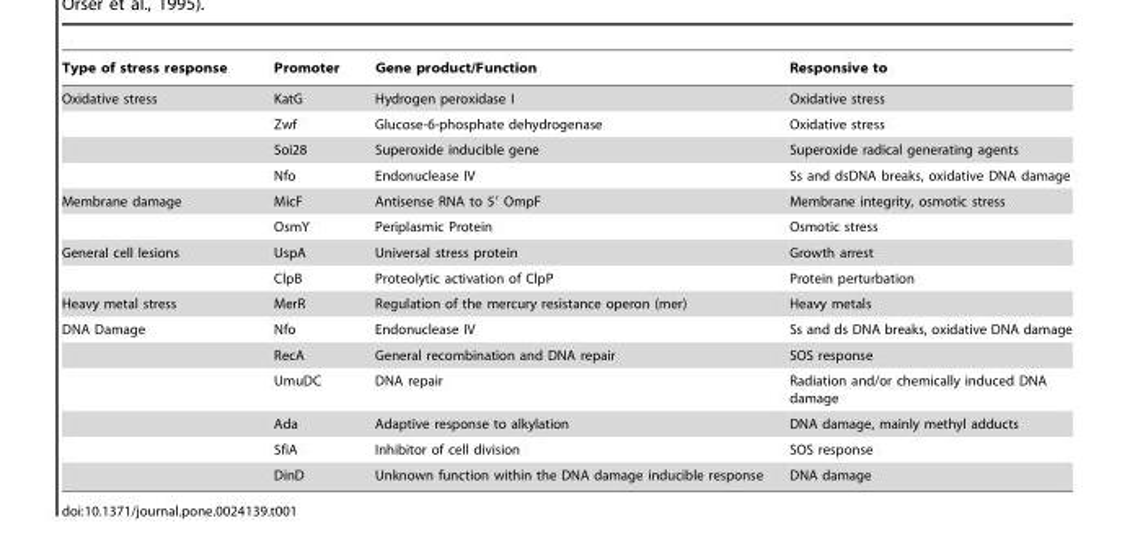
<table><thead><tr><td>Type of stress response</td><td>Promoter</td><td>Gene product/Function</td><td>Responsive to</td></tr></thead><tbody><tr><td rowspan="4">Oxidative stress</td><td>KatG</td><td>Hydrogen peroxidase I</td><td>Oxidative stress</td></tr><tr><td>Zwf</td><td>Glucose-6-phosphate dehydrogenase</td><td>Oxidative stress</td></tr><tr><td>Soi28</td><td>Superoxide inducible gene</td><td>Superoxide radical generating agents</td></tr><tr><td>Nfo</td><td>Endonuclease IV</td><td>Ss and dsDNA breaks, oxidative DNA damage</td></tr><tr><td rowspan="2">Membrane damage</td><td>MicF</td><td>Antisense RNA to 5′ OmpF</td><td>Membrane integrity, osmotic stress</td></tr><tr><td>OsmY</td><td>Periplasmic Protein</td><td>Osmotic stress</td></tr><tr><td rowspan="2">General cell lesions</td><td>UspA</td><td>Universal stress protein</td><td>Growth arrest</td></tr><tr><td>ClpB</td><td>Proteolytic activation of ClpP</td><td>Protein perturbation</td></tr><tr><td>Heavy metal stress</td><td>MerR</td><td>Regulation of the mercury resistance operon (mer)</td><td>Heavy metals</td></tr><tr><td rowspan="6">DNA Damage</td><td>Nfo</td><td>Endonuclease IV</td><td>Ss and ds DNA breaks, oxidative DNA damage</td></tr><tr><td>RecA</td><td>General recombination and DNA repair</td><td>SOS response</td></tr><tr><td>UmuDC</td><td>DNA repair</td><td>Radiation and/or chemically induced DNA damage</td></tr><tr><td>Ada</td><td>Adaptive response to alkylation</td><td>DNA damage, mainly methyl adducts</td></tr><tr><td>SfiA</td><td>Inhibitor of cell division</td><td>SOS response</td></tr><tr><td>DinD</td><td>Unknown function within the DNA damage inducible response</td><td>DNA damage</td></tr></tbody></table>